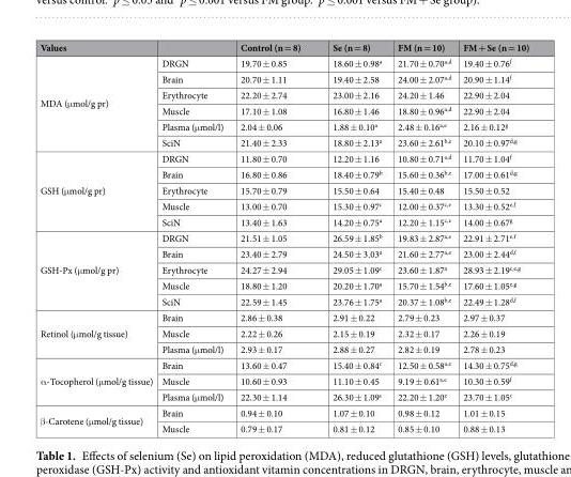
<table><thead><tr><td>Values</td><td></td><td>Control (n = 8)</td><td>Se (n = 8)</td><td>FM (n = 10)</td><td>FM + Se (n = 10)</td></tr></thead><tbody><tr><td rowspan="6">MDA (μmol/g pr)</td><td>DRGN</td><td>19.70 ± 0.85</td><td>18.60 ± 0.98<sup>a</sup></td><td>21.70 ± 0.70<sup>a,d</sup></td><td>19.40 ± 0.76<sup>f</sup></td></tr><tr><td>Brain</td><td>20.70 ± 1.11</td><td>19.40 ± 2.58</td><td>24.00 ± 2.07<sup>a,d</sup></td><td>20.90 ± 1.14<sup>f</sup></td></tr><tr><td>Erythrocyte</td><td>22.20 ± 2.74</td><td>23.00 ± 2.16</td><td>24.20 ± 1.46</td><td>22.90 ± 2.04</td></tr><tr><td>Muscle</td><td>17.10 ± 1.08</td><td>16.80 ± 1.46</td><td>18.80 ± 0.96<sup>a,d</sup></td><td>22.90 ± 2.04</td></tr><tr><td>Plasma (μmol/l)</td><td>2.04 ± 0.06</td><td>1.88 ± 0.10<sup>a</sup></td><td>2.48 ± 0.16<sup>a,e</sup></td><td>2.16 ± 0.12<sup>g</sup></td></tr><tr><td>SciN</td><td>21.40 ± 2.33</td><td>18.80 ± 2.13<sup>a</sup></td><td>23.60 ± 2.61<sup>b,e</sup></td><td>20.10 ± 0.97<sup>d,g</sup></td></tr><tr><td rowspan="5">GSH (μmol/g pr)</td><td>DRGN</td><td>11.80 ± 0.70</td><td>12.20 ± 1.16</td><td>10.80 ± 0.71<sup>a,d</sup></td><td>11.70 ± 1.04<sup>f</sup></td></tr><tr><td>Brain</td><td>16.80 ± 0.86</td><td>18.40 ± 0.79<sup>b</sup></td><td>15.60 ± 0.36<sup>b,e</sup></td><td>17.00 ± 0.61<sup>d,g</sup></td></tr><tr><td>Erythrocyte</td><td>15.70 ± 0.79</td><td>15.50 ± 0.64</td><td>15.40 ± 0.48</td><td>15.50 ± 0.52</td></tr><tr><td>Muscle</td><td>13.00 ± 0.70</td><td>15.30 ± 0.97<sup>c</sup></td><td>12.00 ± 0.37<sup>c,e</sup></td><td>13.30 ± 0.52<sup>e,f</sup></td></tr><tr><td>SciN</td><td>13.40 ± 1.63</td><td>14.20 ± 0.75<sup>a</sup></td><td>12.20 ± 1.15<sup>c,e</sup></td><td>14.00 ± 0.67<sup>g</sup></td></tr><tr><td rowspan="5">GSH-Px (μmol/g pr)</td><td>DRGN</td><td>21.51 ± 1.05</td><td>26.59 ± 1.85<sup>b</sup></td><td>19.83 ± 2.87<sup>a,e</sup></td><td>22.91 ± 2.71<sup>e,f</sup></td></tr><tr><td>Brain</td><td>23.40 ± 2.79</td><td>24.50 ± 3.03<sup>a</sup></td><td>21.60 ± 2.77<sup>a,e</sup></td><td>23.00 ± 2.44<sup>d,f</sup></td></tr><tr><td>Erythrocyte</td><td>24.27 ± 2.94</td><td>29.05 ± 1.09<sup>c</sup></td><td>23.60 ± 1.87<sup>a</sup></td><td>28.93 ± 2.19<sup>c,e,g</sup></td></tr><tr><td>Muscle</td><td>18.80 ± 1.20</td><td>20.20 ± 1.70<sup>a</sup></td><td>15.70 ± 1.54<sup>b,e</sup></td><td>17.60 ± 1.05<sup>e,g</sup></td></tr><tr><td>SciN</td><td>22.59 ± 1.45</td><td>23.76 ± 1.75<sup>a</sup></td><td>20.37 ± 1.08<sup>b,e</sup></td><td>22.49 ± 1.28<sup>d,f</sup></td></tr><tr><td rowspan="3">Retinol (μmol/g tissue)</td><td>Brain</td><td>2.86 ± 0.38</td><td>2.91 ± 0.22</td><td>2.79 ± 0.23</td><td>2.97 ± 0.37</td></tr><tr><td>Muscle</td><td>2.22 ± 0.26</td><td>2.15 ± 0.19</td><td>2.32 ± 0.17</td><td>2.26 ± 0.19</td></tr><tr><td>Plasma (μmol/l)</td><td>2.93 ± 0.17</td><td>2.88 ± 0.27</td><td>2.82 ± 0.19</td><td>2.78 ± 0.23</td></tr><tr><td rowspan="3">α-Tocopherol (μmol/g tissue)</td><td>Brain</td><td>13.60 ± 0.47</td><td>15.40 ± 0.84<sup>c</sup></td><td>12.50 ± 0.58<sup>a,e</sup></td><td>14.30 ± 0.75<sup>d,g</sup></td></tr><tr><td>Muscle</td><td>10.60 ± 0.93</td><td>11.10 ± 0.45</td><td>9.19 ± 0.61<sup>a,e</sup></td><td>10.30 ± 0.59<sup>f</sup></td></tr><tr><td>Plasma (μmol/l)</td><td>22.30 ± 1.14</td><td>26.30 ± 1.09<sup>c</sup></td><td>22.20 ± 1.20<sup>e</sup></td><td>23.70 ± 1.05<sup>c</sup></td></tr><tr><td rowspan="2">β-Carotene (μmol/g tissue)</td><td>Brain</td><td>0.94 ± 0.10</td><td>1.07 ± 0.10</td><td>0.98 ± 0.12</td><td>1.01 ± 0.15</td></tr><tr><td>Muscle</td><td>0.79 ± 0.17</td><td>0.81 ± 0.12</td><td>0.85 ± 0.10</td><td>0.88 ± 0.13</td></tr></tbody></table>